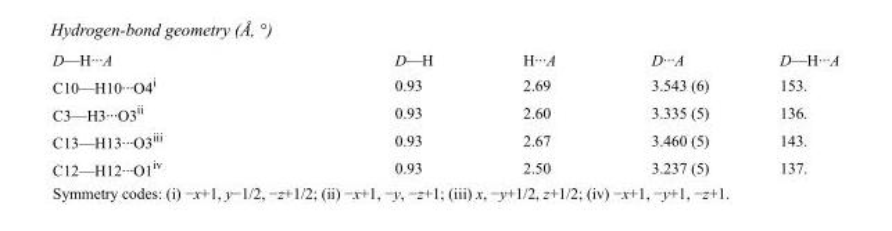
<table><tbody><tr><td>D—H···A</td><td>D—H</td><td>H···A</td><td>D···A</td><td>D—H···A</td></tr><tr><td>C10—H10···O4<sup>i</sup></td><td>0.93</td><td>2.69</td><td>3.543 (6)</td><td>153.</td></tr><tr><td>C3—H3···O3<sup>ii</sup></td><td>0.93</td><td>2.60</td><td>3.335 (5)</td><td>136.</td></tr><tr><td>C13—H13···O3<sup>iii</sup></td><td>0.93</td><td>2.67</td><td>3.460 (5)</td><td>143.</td></tr><tr><td>C12—H12···O1<sup>iv</sup></td><td>0.93</td><td>2.50</td><td>3.237 (5)</td><td>137.</td></tr></tbody></table>